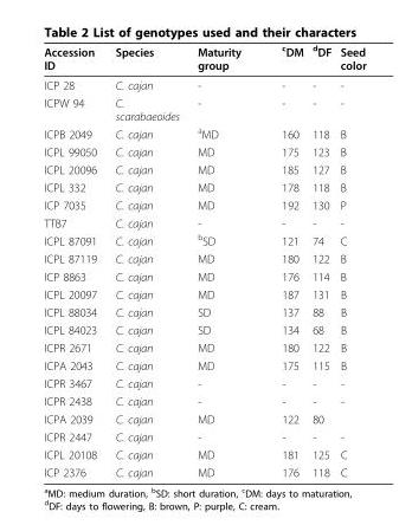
<table><thead><tr><td>Accession ID</td><td>Species</td><td>Maturity group</td><td><sup>c</sup>DM</td><td><sup>d</sup>DF</td><td>Seed color</td></tr></thead><tbody><tr><td>ICP 28</td><td>C. cajan</td><td>-</td><td>-</td><td>-</td><td>-</td></tr><tr><td>ICPW 94</td><td>C. scarabaeoides</td><td>-</td><td>-</td><td>-</td><td>-</td></tr><tr><td>ICPB 2049</td><td>C. cajan</td><td><sup>a</sup>MD</td><td>160</td><td>118</td><td>B</td></tr><tr><td>ICPL 99050</td><td>C. cajan</td><td>MD</td><td>175</td><td>123</td><td>B</td></tr><tr><td>ICPL 20096</td><td>C. cajan</td><td>MD</td><td>185</td><td>127</td><td>B</td></tr><tr><td>ICPL 332</td><td>C. cajan</td><td>MD</td><td>178</td><td>118</td><td>B</td></tr><tr><td>ICP 7035</td><td>C. cajan</td><td>MD</td><td>192</td><td>130</td><td>P</td></tr><tr><td>TTB7</td><td>C. cajan</td><td>-</td><td>-</td><td>-</td><td>-</td></tr><tr><td>ICPL 87091</td><td>C. cajan</td><td><sup>b</sup>SD</td><td>121</td><td>74</td><td>C</td></tr><tr><td>ICPL 87119</td><td>C. cajan</td><td>MD</td><td>180</td><td>122</td><td>B</td></tr><tr><td>ICP 8863</td><td>C. cajan</td><td>MD</td><td>176</td><td>114</td><td>B</td></tr><tr><td>ICPL 20097</td><td>C. cajan</td><td>MD</td><td>187</td><td>131</td><td>B</td></tr><tr><td>ICPL 88034</td><td>C. cajan</td><td>SD</td><td>137</td><td>88</td><td>B</td></tr><tr><td>ICPL 84023</td><td>C. cajan</td><td>SD</td><td>134</td><td>68</td><td>B</td></tr><tr><td>ICPR 2671</td><td>C. cajan</td><td>MD</td><td>180</td><td>122</td><td>B</td></tr><tr><td>ICPA 2043</td><td>C. cajan</td><td>MD</td><td>175</td><td>115</td><td>B</td></tr><tr><td>ICPR 3467</td><td>C. cajan</td><td>-</td><td>-</td><td>-</td><td>-</td></tr><tr><td>ICPR 2438</td><td>C. cajan</td><td>-</td><td>-</td><td>-</td><td>-</td></tr><tr><td>ICPA 2039</td><td>C. cajan</td><td>MD</td><td>122</td><td>80</td><td></td></tr><tr><td>ICPR 2447</td><td>C. cajan</td><td>-</td><td>-</td><td>-</td><td>-</td></tr><tr><td>ICPL 20108</td><td>C. cajan</td><td>MD</td><td>181</td><td>125</td><td>C</td></tr><tr><td>ICP 2376</td><td>C. cajan</td><td>MD</td><td>176</td><td>118</td><td>C</td></tr></tbody></table>